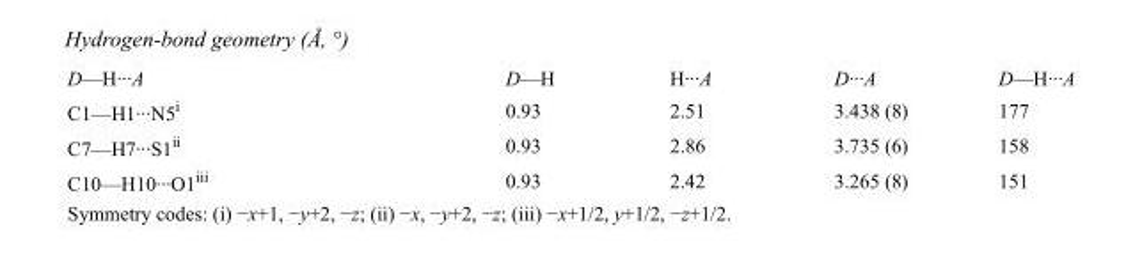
<table><tbody><tr><td>D—H···A</td><td>D—H</td><td>H···A</td><td>D···A</td><td>D—H···A</td></tr><tr><td>C1—H1···N5<sup>i</sup></td><td>0.93</td><td>2.51</td><td>3.438 (8)</td><td>177</td></tr><tr><td>C7—H7···S1<sup>ii</sup></td><td>0.93</td><td>2.86</td><td>3.735 (6)</td><td>158</td></tr><tr><td>C10—H10···O1<sup>iii</sup></td><td>0.93</td><td>2.42</td><td>3.265 (8)</td><td>151</td></tr></tbody></table>